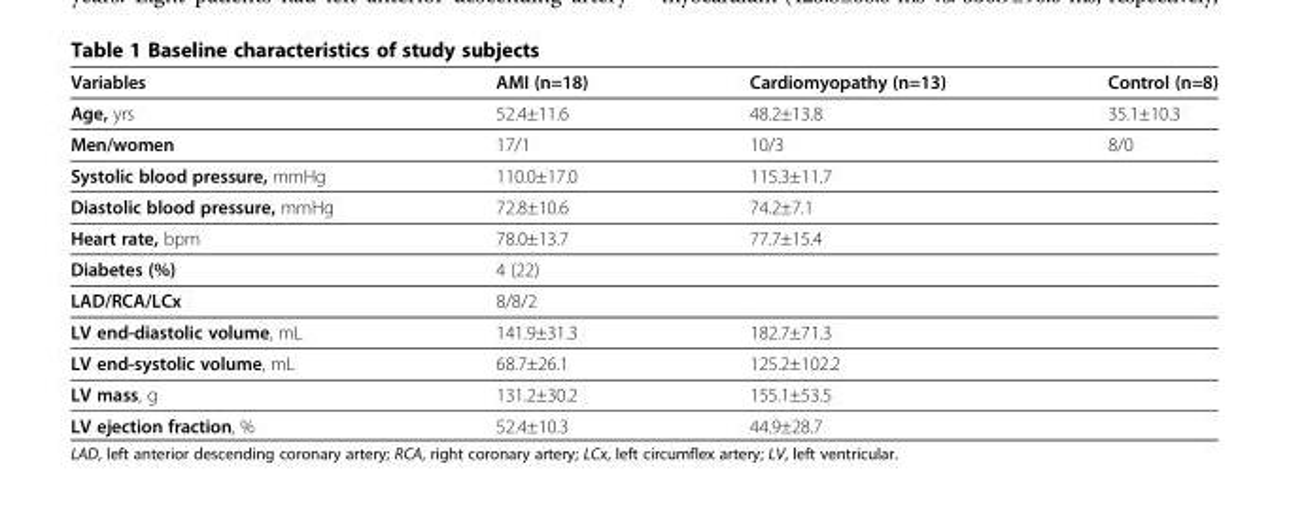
<table><thead><tr><td>Variables</td><td>AMI (n=18)</td><td>Cardiomyopathy (n=13)</td><td>Control (n=8)</td></tr></thead><tbody><tr><td>Age, yrs</td><td>52.4±11.6</td><td>48.2±13.8</td><td>35.1±10.3</td></tr><tr><td>Men/women</td><td>17/1</td><td>10/3</td><td>8/0</td></tr><tr><td>Systolic blood pressure, mmHg</td><td>110.0±17.0</td><td>115.3±11.7</td><td></td></tr><tr><td>Diastolic blood pressure, mmHg</td><td>72.8±10.6</td><td>74.2±7.1</td><td></td></tr><tr><td>Heart rate, bpm</td><td>78.0±13.7</td><td>77.7±15.4</td><td></td></tr><tr><td>Diabetes (%)</td><td>4 (22)</td><td></td><td></td></tr><tr><td>LAD/RCA/LCx</td><td>8/8/2</td><td></td><td></td></tr><tr><td>LV end-diastolic volume, mL</td><td>141.9±31.3</td><td>182.7±71.3</td><td></td></tr><tr><td>LV end-systolic volume, mL</td><td>68.7±26.1</td><td>125.2±102.2</td><td></td></tr><tr><td>LV mass, g</td><td>131.2±30.2</td><td>155.1±53.5</td><td></td></tr><tr><td>LV ejection fraction, %</td><td>52.4±10.3</td><td>44.9±28.7</td><td></td></tr></tbody></table>